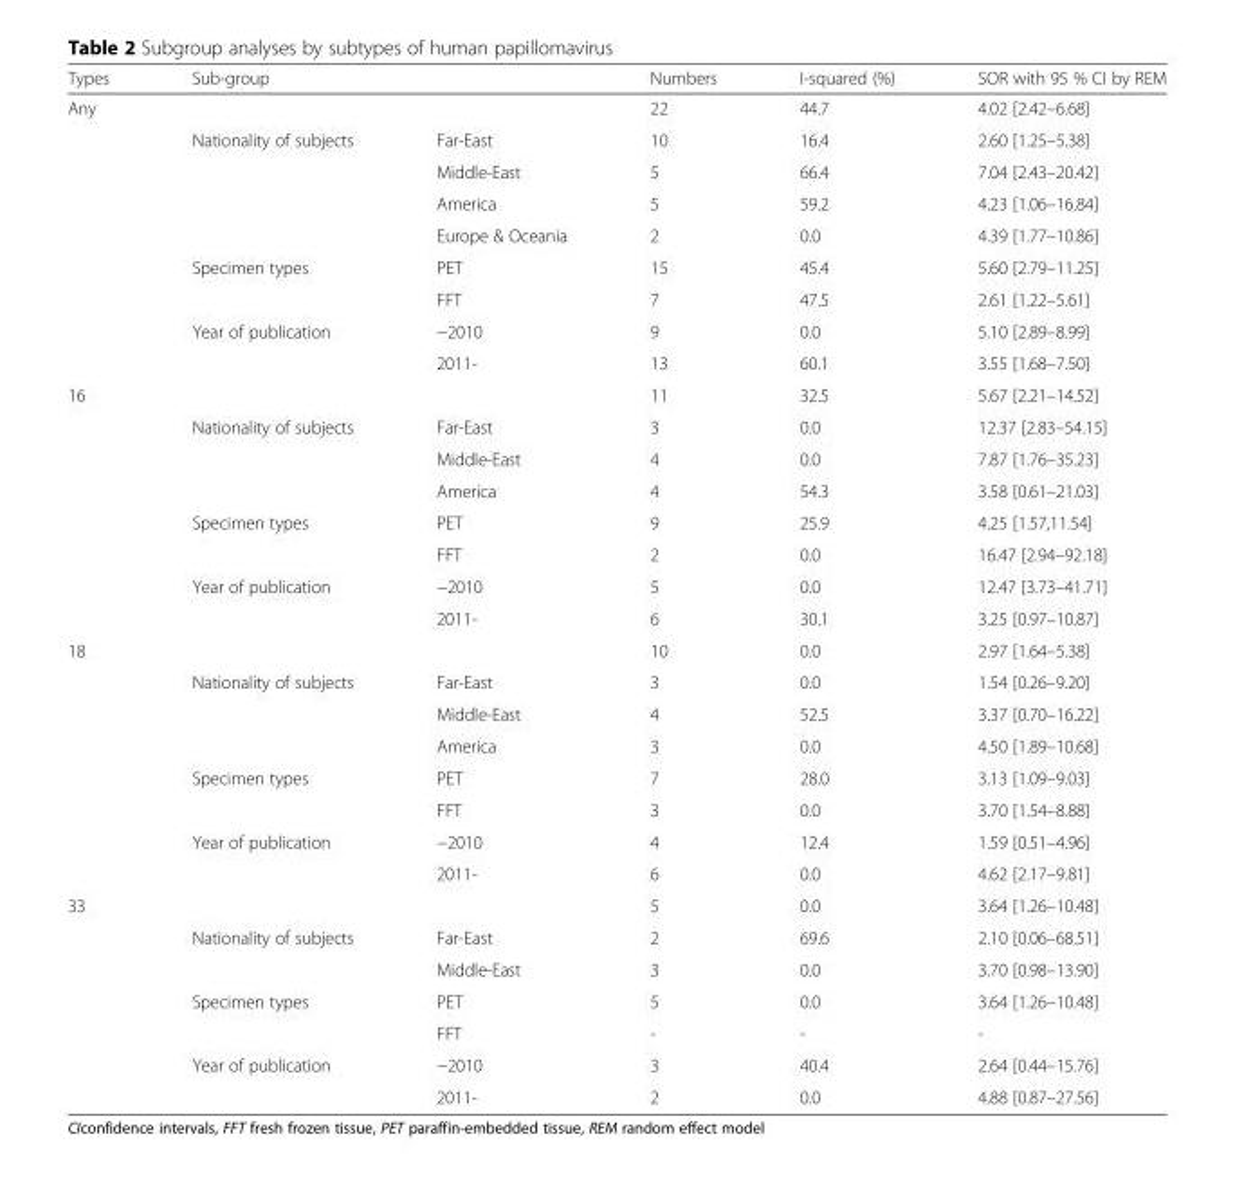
<table><thead><tr><td>Types</td><td>Sub-group</td><td></td><td>Numbers</td><td>I-squared (%)</td><td>SOR with 95 % CI by REM</td></tr></thead><tbody><tr><td rowspan="9">Any</td><td></td><td></td><td>22</td><td>44.7</td><td>4.02 [2.42–6.68]</td></tr><tr><td>Nationality of subjects</td><td>Far-East</td><td>10</td><td>16.4</td><td>2.60 [1.25–5.38]</td></tr><tr><td></td><td>Middle-East</td><td>5</td><td>66.4</td><td>7.04 [2.43–20.42]</td></tr><tr><td></td><td>America</td><td>5</td><td>59.2</td><td>4.23 [1.06–16.84]</td></tr><tr><td></td><td>Europe &amp; Oceania</td><td>2</td><td>0.0</td><td>4.39 [1.77–10.86]</td></tr><tr><td>Specimen types</td><td>PET</td><td>15</td><td>45.4</td><td>5.60 [2.79–11.25]</td></tr><tr><td></td><td>FFT</td><td>7</td><td>47.5</td><td>2.61 [1.22–5.61]</td></tr><tr><td>Year of publication</td><td>−2010</td><td>9</td><td>0.0</td><td>5.10 [2.89–8.99]</td></tr><tr><td></td><td>2011-</td><td>13</td><td>60.1</td><td>3.55 [1.68–7.50]</td></tr><tr><td rowspan="8">16</td><td></td><td></td><td>11</td><td>32.5</td><td>5.67 [2.21–14.52]</td></tr><tr><td>Nationality of subjects</td><td>Far-East</td><td>3</td><td>0.0</td><td>12.37 [2.83–54.15]</td></tr><tr><td></td><td>Middle-East</td><td>4</td><td>0.0</td><td>7.87 [1.76–35.23]</td></tr><tr><td></td><td>America</td><td>4</td><td>54.3</td><td>3.58 [0.61–21.03]</td></tr><tr><td>Specimen types</td><td>PET</td><td>9</td><td>25.9</td><td>4.25 [1.57,11.54]</td></tr><tr><td></td><td>FFT</td><td>2</td><td>0.0</td><td>16.47 [2.94–92.18]</td></tr><tr><td>Year of publication</td><td>−2010</td><td>5</td><td>0.0</td><td>12.47 [3.73–41.71]</td></tr><tr><td></td><td>2011-</td><td>6</td><td>30.1</td><td>3.25 [0.97–10.87]</td></tr><tr><td rowspan="8">18</td><td></td><td></td><td>10</td><td>0.0</td><td>2.97 [1.64–5.38]</td></tr><tr><td>Nationality of subjects</td><td>Far-East</td><td>3</td><td>0.0</td><td>1.54 [0.26–9.20]</td></tr><tr><td></td><td>Middle-East</td><td>4</td><td>52.5</td><td>3.37 [0.70–16.22]</td></tr><tr><td></td><td>America</td><td>3</td><td>0.0</td><td>4.50 [1.89–10.68]</td></tr><tr><td>Specimen types</td><td>PET</td><td>7</td><td>28.0</td><td>3.13 [1.09–9.03]</td></tr><tr><td></td><td>FFT</td><td>3</td><td>0.0</td><td>3.70 [1.54–8.88]</td></tr><tr><td>Year of publication</td><td>−2010</td><td>4</td><td>12.4</td><td>1.59 [0.51–4.96]</td></tr><tr><td></td><td>2011-</td><td>6</td><td>0.0</td><td>4.62 [2.17–9.81]</td></tr><tr><td rowspan="7">33</td><td></td><td></td><td>5</td><td>0.0</td><td>3.64 [1.26–10.48]</td></tr><tr><td>Nationality of subjects</td><td>Far-East</td><td>2</td><td>69.6</td><td>2.10 [0.06–68.51]</td></tr><tr><td></td><td>Middle-East</td><td>3</td><td>0.0</td><td>3.70 [0.98–13.90]</td></tr><tr><td>Specimen types</td><td>PET</td><td>5</td><td>0.0</td><td>3.64 [1.26–10.48]</td></tr><tr><td></td><td>FFT</td><td>-</td><td>-</td><td>-</td></tr><tr><td>Year of publication</td><td>−2010</td><td>3</td><td>40.4</td><td>2.64 [0.44–15.76]</td></tr><tr><td></td><td>2011-</td><td>2</td><td>0.0</td><td>4.88 [0.87–27.56]</td></tr></tbody></table>